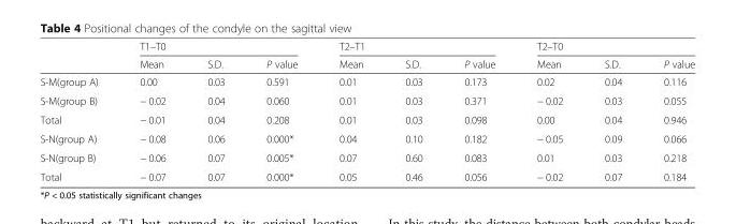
<table><thead><tr><td rowspan="2"></td><td colspan="3">T1–T0</td><td colspan="3">T2–T1</td><td colspan="3">T2–T0</td></tr><tr><td>Mean</td><td>S.D.</td><td>P value</td><td>Mean</td><td>S.D.</td><td>P value</td><td>Mean</td><td>S.D.</td><td>P value</td></tr></thead><tbody><tr><td>S-M(group A)</td><td>0.00</td><td>0.03</td><td>0.591</td><td>0.01</td><td>0.03</td><td>0.173</td><td>0.02</td><td>0.04</td><td>0.116</td></tr><tr><td>S-M(group B)</td><td>− 0.02</td><td>0.04</td><td>0.060</td><td>0.01</td><td>0.03</td><td>0.371</td><td>− 0.02</td><td>0.03</td><td>0.055</td></tr><tr><td>Total</td><td>− 0.01</td><td>0.04</td><td>0.208</td><td>0.01</td><td>0.03</td><td>0.098</td><td>0.00</td><td>0.04</td><td>0.946</td></tr><tr><td>S-N(group A)</td><td>− 0.08</td><td>0.06</td><td>0.000*</td><td>0.04</td><td>0.10</td><td>0.182</td><td>− 0.05</td><td>0.09</td><td>0.066</td></tr><tr><td>S-N(group B)</td><td>− 0.06</td><td>0.07</td><td>0.005*</td><td>0.07</td><td>0.60</td><td>0.083</td><td>0.01</td><td>0.03</td><td>0.218</td></tr><tr><td>Total</td><td>− 0.07</td><td>0.07</td><td>0.000*</td><td>0.05</td><td>0.46</td><td>0.056</td><td>− 0.02</td><td>0.07</td><td>0.184</td></tr></tbody></table>